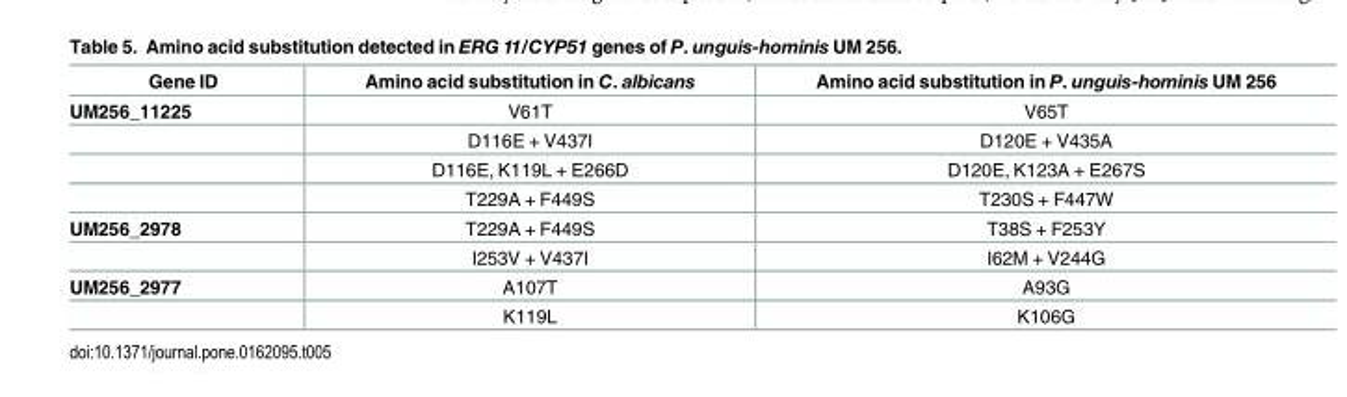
<table><thead><tr><td>Gene ID</td><td>Amino acid substitution in C. albicans</td><td>Amino acid substitution in P. unguis-hominis UM 256</td></tr></thead><tbody><tr><td rowspan="4">UM256_11225</td><td>V61T</td><td>V65T</td></tr><tr><td>D116E + V437I</td><td>D120E + V435A</td></tr><tr><td>D116E, K119L + E266D</td><td>D120E, K123A + E267S</td></tr><tr><td>T229A + F449S</td><td>T230S + F447W</td></tr><tr><td rowspan="2">UM256_2978</td><td>T229A + F449S</td><td>T38S + F253Y</td></tr><tr><td>I253V + V437I</td><td>I62M + V244G</td></tr><tr><td rowspan="2">UM256_2977</td><td>A107T</td><td>A93G</td></tr><tr><td>K119L</td><td>K106G</td></tr></tbody></table>